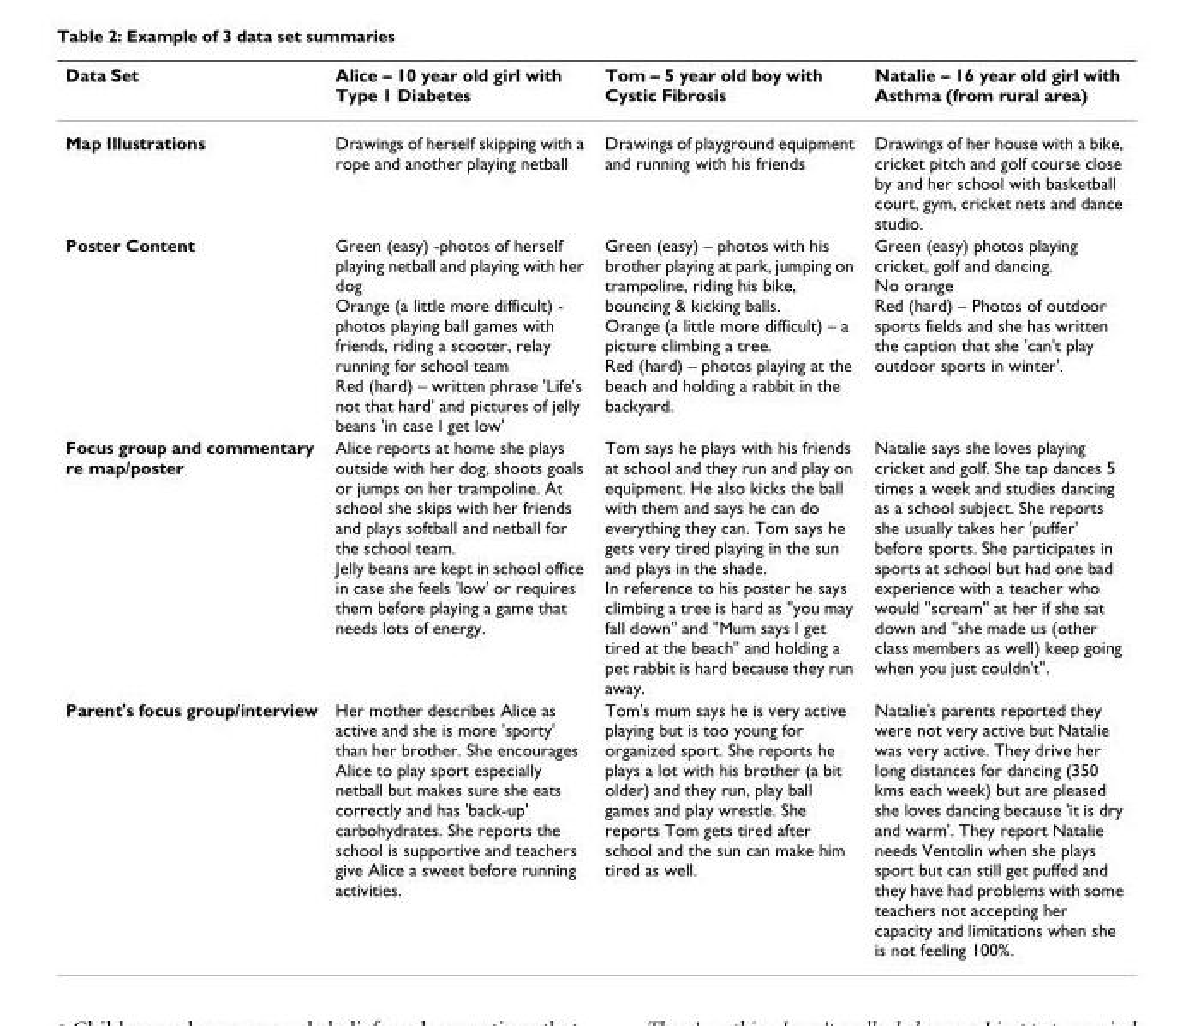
<table><thead><tr><td>Data Set</td><td>Alice – 10 year old girl with Type 1 Diabetes</td><td>Tom – 5 year old boy with Cystic Fibrosis</td><td>Natalie – 16 year old girl with Asthma (from rural area)</td></tr></thead><tbody><tr><td>Map Illustrations</td><td>Drawings of herself skipping with a rope and another playing netball</td><td>Drawings of playground equipment and running with his friends</td><td>Drawings of her house with a bike, cricket pitch and golf course close by and her school with basketball court, gym, cricket nets and dance studio.</td></tr><tr><td>Poster Content</td><td>Green (easy) -photos of herself playing netball and playing with her dog Orange (a little more difficult) - photos playing ball games with friends, riding a scooter, relay running for school team Red (hard) – written phrase &#x27;Life&#x27;s not that hard&#x27; and pictures of jelly beans &#x27;in case I get low&#x27;</td><td>Green (easy) – photos with his brother playing at park, jumping on trampoline, riding his bike, bouncing &amp; kicking balls. Orange (a little more difficult) – a picture climbing a tree. Red (hard) – photos playing at the beach and holding a rabbit in the backyard.</td><td>Green (easy) photos playing cricket, golf and dancing. No orange Red (hard) – Photos of outdoor sports fields and she has written the caption that she &#x27;can&#x27;t play outdoor sports in winter&#x27;.</td></tr><tr><td>Focus group and commentary re map/poster</td><td>Alice reports at home she plays outside with her dog, shoots goals or jumps on her trampoline. At school she skips with her friends and plays softball and netball for the school team. Jelly beans are kept in school office in case she feels &#x27;low&#x27; or requires them before playing a game that needs lots of energy.</td><td>Tom says he plays with his friends at school and they run and play on equipment. He also kicks the ball with them and says he can do everything they can. Tom says he gets very tired playing in the sun and plays in the shade. In reference to his poster he says climbing a tree is hard as &quot;you may fall down&quot; and &quot;Mum says I get tired at the beach&quot; and holding a pet rabbit is hard because they run away.</td><td>Natalie says she loves playing cricket and golf. She tap dances 5 times a week and studies dancing as a school subject. She reports she usually takes her &#x27;puffer&#x27; before sports. She participates in sports at school but had one bad experience with a teacher who would &quot;scream&quot; at her if she sat down and &quot;she made us (other class members as well) keep going when you just couldn&#x27;t&quot;.</td></tr><tr><td>Parent&#x27;s focus group/interview</td><td>Her mother describes Alice as active and she is more &#x27;sporty&#x27; than her brother. She encourages Alice to play sport especially netball but makes sure she eats correctly and has &#x27;back-up&#x27; carbohydrates. She reports the school is supportive and teachers give Alice a sweet before running activities.</td><td>Tom&#x27;s mum says he is very active playing but is too young for organized sport. She reports he plays a lot with his brother (a bit older) and they run, play ball games and play wrestle. She reports Tom gets tired after school and the sun can make him tired as well.</td><td>Natalie&#x27;s parents reported they were not very active but Natalie was very active. They drive her long distances for dancing (350 kms each week) but are pleased she loves dancing because &#x27;it is dry and warm&#x27;. They report Natalie needs Ventolin when she plays sport but can still get puffed and they have had problems with some teachers not accepting her capacity and limitations when she is not feeling 100%.</td></tr></tbody></table>